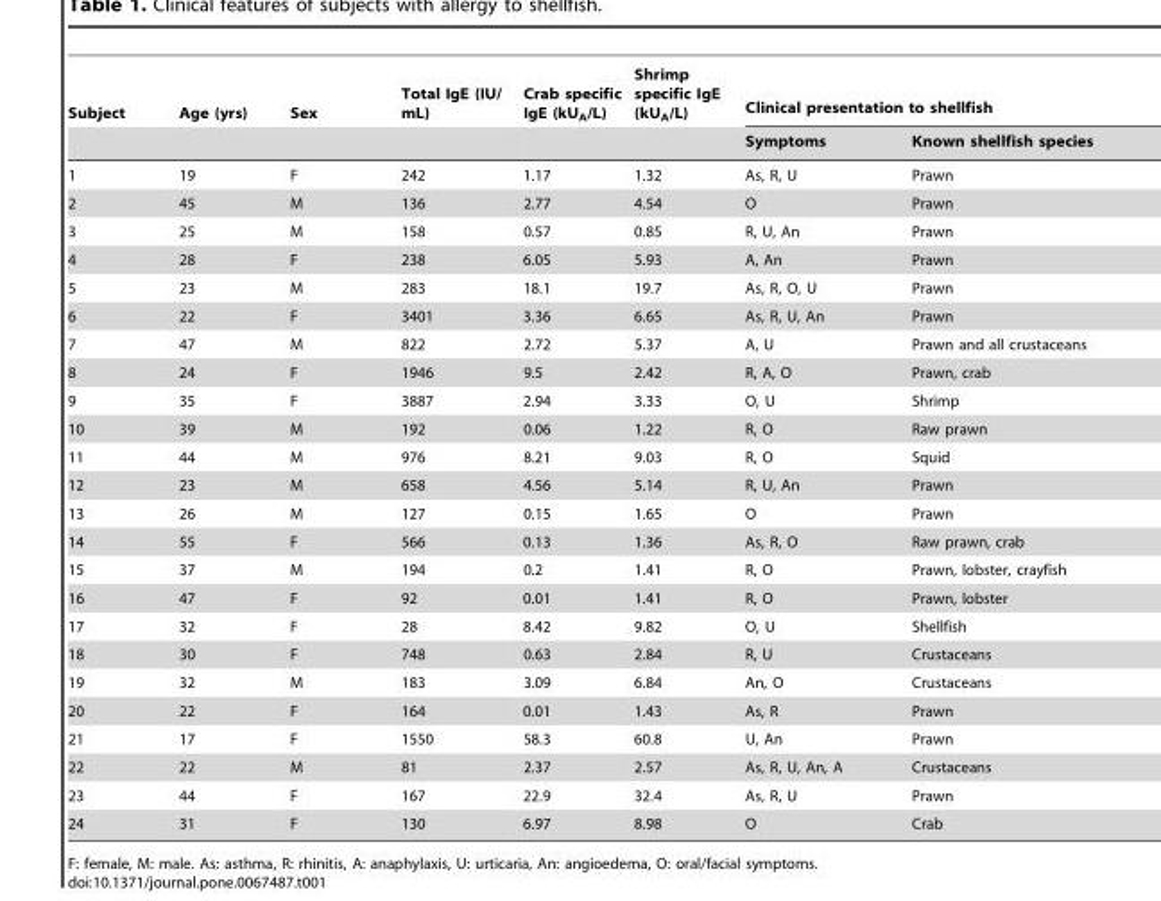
<table><thead><tr><td rowspan="2">Subject</td><td rowspan="2">Age (yrs)</td><td rowspan="2">Sex</td><td rowspan="2">Total IgE (IU/ mL)</td><td rowspan="2">Crab specific IgE (kU<sub>A</sub>/L)</td><td rowspan="2">Shrimp specific IgE (kU<sub>A</sub>/L)</td><td colspan="2">Clinical presentation to shellfish</td></tr><tr><td>Symptoms</td><td>Known shellfish species</td></tr></thead><tbody><tr><td>1</td><td>19</td><td>F</td><td>242</td><td>1.17</td><td>1.32</td><td>As, R, U</td><td>Prawn</td></tr><tr><td>2</td><td>45</td><td>M</td><td>136</td><td>2.77</td><td>4.54</td><td>O</td><td>Prawn</td></tr><tr><td>3</td><td>25</td><td>M</td><td>158</td><td>0.57</td><td>0.85</td><td>R, U, An</td><td>Prawn</td></tr><tr><td>4</td><td>28</td><td>F</td><td>238</td><td>6.05</td><td>5.93</td><td>A, An</td><td>Prawn</td></tr><tr><td>5</td><td>23</td><td>M</td><td>283</td><td>18.1</td><td>19.7</td><td>As, R, O, U</td><td>Prawn</td></tr><tr><td>6</td><td>22</td><td>F</td><td>3401</td><td>3.36</td><td>6.65</td><td>As, R, U, An</td><td>Prawn</td></tr><tr><td>7</td><td>47</td><td>M</td><td>822</td><td>2.72</td><td>5.37</td><td>A, U</td><td>Prawn and all crustaceans</td></tr><tr><td>8</td><td>24</td><td>F</td><td>1946</td><td>9.5</td><td>2.42</td><td>R, A, O</td><td>Prawn, crab</td></tr><tr><td>9</td><td>35</td><td>F</td><td>3887</td><td>2.94</td><td>3.33</td><td>O, U</td><td>Shrimp</td></tr><tr><td>10</td><td>39</td><td>M</td><td>192</td><td>0.06</td><td>1.22</td><td>R, O</td><td>Raw prawn</td></tr><tr><td>11</td><td>44</td><td>M</td><td>976</td><td>8.21</td><td>9.03</td><td>R, O</td><td>Squid</td></tr><tr><td>12</td><td>23</td><td>M</td><td>658</td><td>4.56</td><td>5.14</td><td>R, U, An</td><td>Prawn</td></tr><tr><td>13</td><td>26</td><td>M</td><td>127</td><td>0.15</td><td>1.65</td><td>O</td><td>Prawn</td></tr><tr><td>14</td><td>55</td><td>F</td><td>566</td><td>0.13</td><td>1.36</td><td>As, R, O</td><td>Raw prawn, crab</td></tr><tr><td>15</td><td>37</td><td>M</td><td>194</td><td>0.2</td><td>1.41</td><td>R, O</td><td>Prawn, lobster, crayfish</td></tr><tr><td>16</td><td>47</td><td>F</td><td>92</td><td>0.01</td><td>1.41</td><td>R, O</td><td>Prawn, lobster</td></tr><tr><td>17</td><td>32</td><td>F</td><td>28</td><td>8.42</td><td>9.82</td><td>O, U</td><td>Shellfish</td></tr><tr><td>18</td><td>30</td><td>F</td><td>748</td><td>0.63</td><td>2.84</td><td>R, U</td><td>Crustaceans</td></tr><tr><td>19</td><td>32</td><td>M</td><td>183</td><td>3.09</td><td>6.84</td><td>An, O</td><td>Crustaceans</td></tr><tr><td>20</td><td>22</td><td>F</td><td>164</td><td>0.01</td><td>1.43</td><td>As, R</td><td>Prawn</td></tr><tr><td>21</td><td>17</td><td>F</td><td>1550</td><td>58.3</td><td>60.8</td><td>U, An</td><td>Prawn</td></tr><tr><td>22</td><td>22</td><td>M</td><td>81</td><td>2.37</td><td>2.57</td><td>As, R, U, An, A</td><td>Crustaceans</td></tr><tr><td>23</td><td>44</td><td>F</td><td>167</td><td>22.9</td><td>32.4</td><td>As, R, U</td><td>Prawn</td></tr><tr><td>24</td><td>31</td><td>F</td><td>130</td><td>6.97</td><td>8.98</td><td>O</td><td>Crab</td></tr></tbody></table>